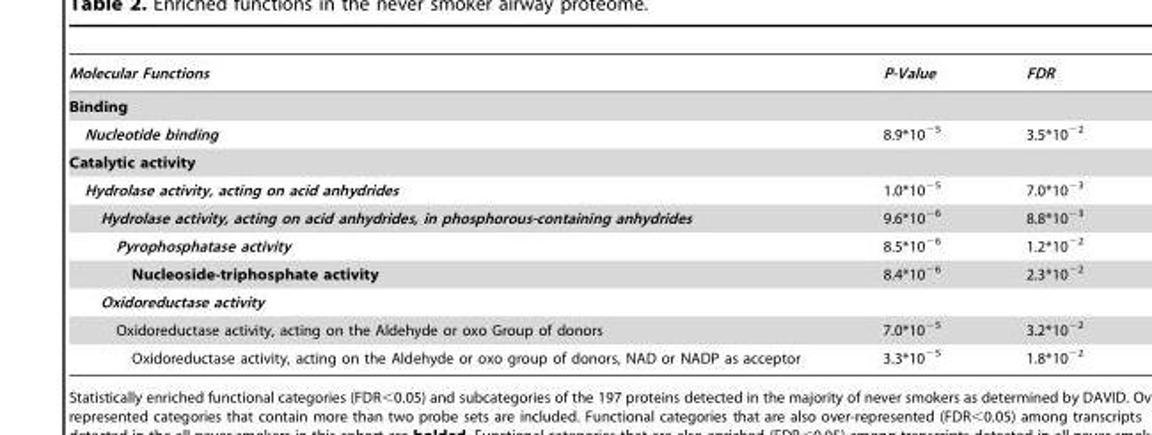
<table><thead><tr><td>Molecular Functions</td><td>P-Value</td><td>FDR</td></tr></thead><tbody><tr><td colspan="3">Binding</td></tr><tr><td>Nucleotide binding</td><td>8.9*10<sup>−5</sup></td><td>3.5*10<sup>−2</sup></td></tr><tr><td colspan="3">Catalytic activity</td></tr><tr><td>Hydrolase activity, acting on acid anhydrides</td><td>1.0*10<sup>−5</sup></td><td>7.0*10<sup>−3</sup></td></tr><tr><td>Hydrolase activity, acting on acid anhydrides, in phosphorous-containing anhydrides</td><td>9.6*10<sup>−6</sup></td><td>8.8*10<sup>−3</sup></td></tr><tr><td>Pyrophosphatase activity</td><td>8.5*10<sup>−6</sup></td><td>1.2*10<sup>−2</sup></td></tr><tr><td>Nucleoside-triphosphate activity</td><td>8.4*10<sup>−6</sup></td><td>2.3*10<sup>−2</sup></td></tr><tr><td colspan="3">Oxidoreductase activity</td></tr><tr><td>Oxidoreductase activity, acting on the Aldehyde or oxo Group of donors</td><td>7.0*10<sup>−5</sup></td><td>3.2*10<sup>−2</sup></td></tr><tr><td>Oxidoreductase activity, acting on the Aldehyde or oxo group of donors, NAD or NADP as acceptor</td><td>3.3*10<sup>−5</sup></td><td>1.8*10<sup>−2</sup></td></tr></tbody></table>